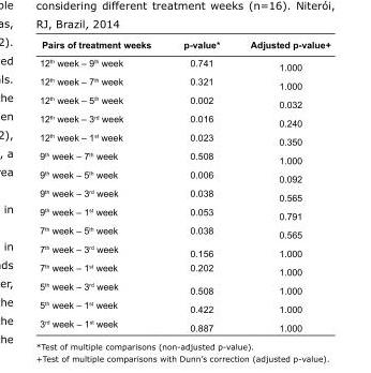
<table><thead><tr><td>Pairs of treatment weeks</td><td>p-value*</td><td>Adjusted p-value+</td></tr></thead><tbody><tr><td>12<sup>th</sup> week – 9<sup>th</sup> week</td><td>0.741</td><td>1.000</td></tr><tr><td>12<sup>th</sup> week – 7<sup>th</sup> week</td><td>0.321</td><td>1.000</td></tr><tr><td>12<sup>th</sup> week – 5<sup>th</sup> week</td><td>0.002</td><td>0.032</td></tr><tr><td>12<sup>th</sup> week – 3<sup>rd</sup> week</td><td>0.016</td><td>0.240</td></tr><tr><td>12<sup>th</sup> week – 1<sup>st</sup> week</td><td>0.023</td><td>0.350</td></tr><tr><td>9<sup>th</sup> week – 7<sup>th</sup> week</td><td>0.508</td><td>1.000</td></tr><tr><td>9<sup>th</sup> week – 5<sup>th</sup> week</td><td>0.006</td><td>0.092</td></tr><tr><td>9<sup>th</sup> week – 3<sup>rd</sup> week</td><td>0.038</td><td>0.565</td></tr><tr><td>9<sup>th</sup> week – 1<sup>st</sup> week</td><td>0.053</td><td>0.791</td></tr><tr><td>7<sup>th</sup> week – 5<sup>th</sup> week</td><td>0.038</td><td>0.565</td></tr><tr><td>7<sup>th</sup> week – 3<sup>rd</sup> week</td><td>0.156</td><td>1.000</td></tr><tr><td>7<sup>th</sup> week – 1<sup>st</sup> week</td><td>0.202</td><td>1.000</td></tr><tr><td>5<sup>th</sup> week – 3<sup>rd</sup> week</td><td>0.508</td><td>1.000</td></tr><tr><td>5<sup>th</sup> week – 1<sup>st</sup> week</td><td>0.422</td><td>1.000</td></tr><tr><td>3<sup>rd</sup> week – 1<sup>st</sup> week</td><td>0.887</td><td>1.000</td></tr></tbody></table>